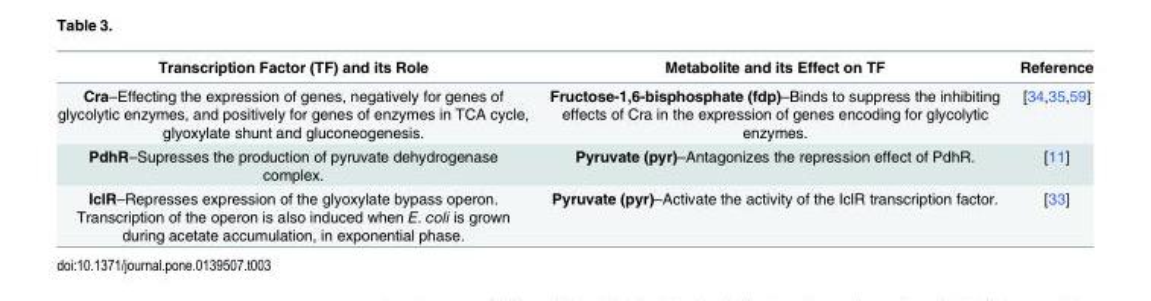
<table><thead><tr><td>Transcription Factor (TF) and its Role</td><td>Metabolite and its Effect on TF</td><td>Reference</td></tr></thead><tbody><tr><td>Cra–Effecting the expression of genes, negatively for genes of glycolytic enzymes, and positively for genes of enzymes in TCA cycle, glyoxylate shunt and gluconeogenesis.</td><td>Fructose-1,6-bisphosphate (fdp)–Binds to suppress the inhibiting effects of Cra in the expression of genes encoding for glycolytic enzymes.</td><td>[34,35,59]</td></tr><tr><td>PdhR–Supresses the production of pyruvate dehydrogenase complex.</td><td>Pyruvate (pyr)–Antagonizes the repression effect of PdhR.</td><td>[11]</td></tr><tr><td>IclR–Represses expression of the glyoxylate bypass operon. Transcription of the operon is also induced when E. coli is grown during acetate accumulation, in exponential phase.</td><td>Pyruvate (pyr)–Activate the activity of the IclR transcription factor.</td><td>[33]</td></tr></tbody></table>